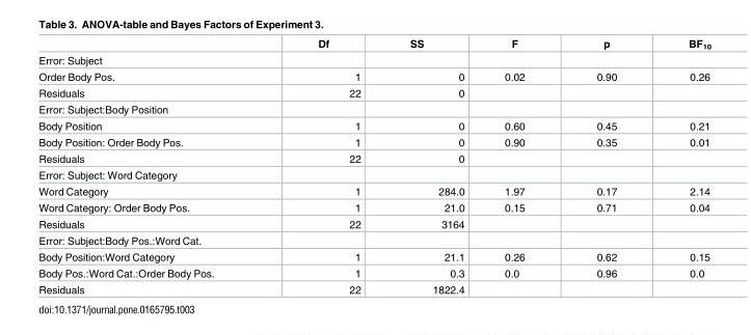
<table><thead><tr><td></td><td>Df</td><td>SS</td><td>F</td><td>p</td><td>BF<sub>10</sub></td></tr></thead><tbody><tr><td colspan="6">Error: Subject</td></tr><tr><td>Order Body Pos.</td><td>1</td><td>0</td><td>0.02</td><td>0.90</td><td>0.26</td></tr><tr><td>Residuals</td><td>22</td><td>0</td><td></td><td></td><td></td></tr><tr><td colspan="6">Error: Subject:Body Position</td></tr><tr><td>Body Position</td><td>1</td><td>0</td><td>0.60</td><td>0.45</td><td>0.21</td></tr><tr><td>Body Position: Order Body Pos.</td><td>1</td><td>0</td><td>0.90</td><td>0.35</td><td>0.01</td></tr><tr><td>Residuals</td><td>22</td><td>0</td><td></td><td></td><td></td></tr><tr><td colspan="6">Error: Subject: Word Category</td></tr><tr><td>Word Category</td><td>1</td><td>284.0</td><td>1.97</td><td>0.17</td><td>2.14</td></tr><tr><td>Word Category: Order Body Pos.</td><td>1</td><td>21.0</td><td>0.15</td><td>0.71</td><td>0.04</td></tr><tr><td>Residuals</td><td>22</td><td>3164</td><td></td><td></td><td></td></tr><tr><td colspan="6">Error: Subject:Body Pos.:Word Cat.</td></tr><tr><td>Body Position:Word Category</td><td>1</td><td>21.1</td><td>0.26</td><td>0.62</td><td>0.15</td></tr><tr><td>Body Pos.:Word Cat.:Order Body Pos.</td><td>1</td><td>0.3</td><td>0.0</td><td>0.96</td><td>0.0</td></tr><tr><td>Residuals</td><td>22</td><td>1822.4</td><td></td><td></td><td></td></tr></tbody></table>